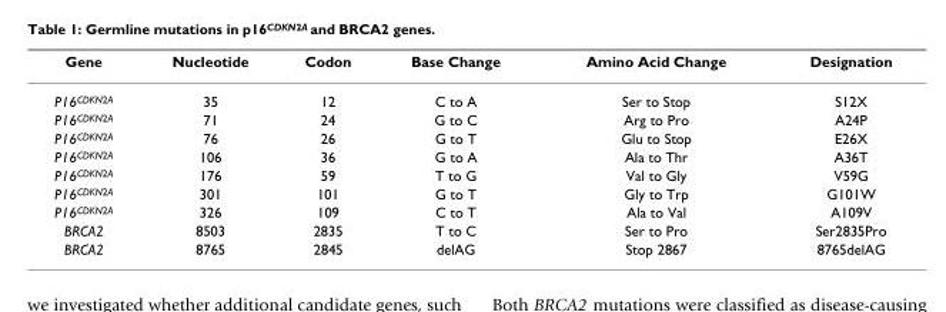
<table><thead><tr><td>Gene</td><td>Nucleotide</td><td>Codon</td><td>Base Change</td><td>Amino Acid Change</td><td>Designation</td></tr></thead><tbody><tr><td>P16<sup>CDKN2A</sup></td><td>35</td><td>12</td><td>C to A</td><td>Ser to Stop</td><td>S12X</td></tr><tr><td>P16<sup>CDKN2A</sup></td><td>71</td><td>24</td><td>G to C</td><td>Arg to Pro</td><td>A24P</td></tr><tr><td>P16<sup>CDKN2A</sup></td><td>76</td><td>26</td><td>G to T</td><td>Glu to Stop</td><td>E26X</td></tr><tr><td>P16<sup>CDKN2A</sup></td><td>106</td><td>36</td><td>G to A</td><td>Ala to Thr</td><td>A36T</td></tr><tr><td>P16<sup>CDKN2A</sup></td><td>176</td><td>59</td><td>T to G</td><td>Val to Gly</td><td>V59G</td></tr><tr><td>P16<sup>CDKN2A</sup></td><td>301</td><td>101</td><td>G to T</td><td>Gly to Trp</td><td>G101W</td></tr><tr><td>P16<sup>CDKN2A</sup></td><td>326</td><td>109</td><td>C to T</td><td>Ala to Val</td><td>A109V</td></tr><tr><td>BRCA2</td><td>8503</td><td>2835</td><td>T to C</td><td>Ser to Pro</td><td>Ser2835Pro</td></tr><tr><td>BRCA2</td><td>8765</td><td>2845</td><td>delAG</td><td>Stop 2867</td><td>8765delAG</td></tr></tbody></table>